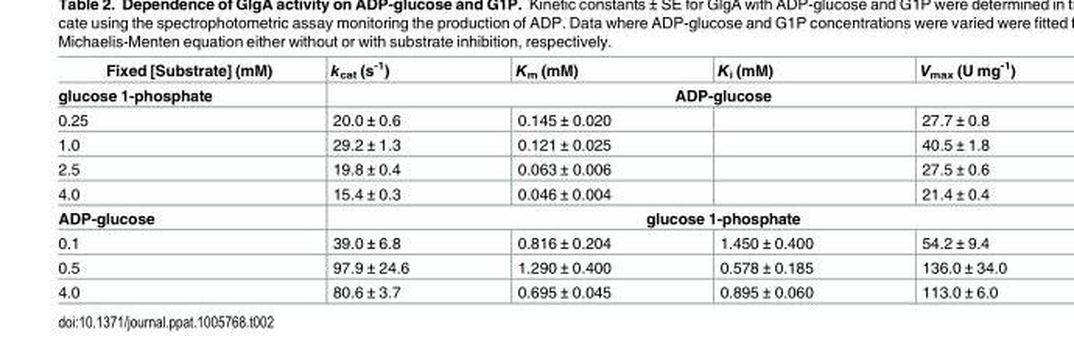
<table><thead><tr><td>Fixed [Substrate] (mM)</td><td>k<sub>cat</sub> (s<sup>-1</sup>)</td><td>K<sub>m</sub> (mM)</td><td>K<sub>i</sub> (mM)</td><td>V<sub>max</sub> (U mg<sup>-1</sup>)</td></tr></thead><tbody><tr><td>glucose 1-phosphate</td><td colspan="4">ADP-glucose</td></tr><tr><td>0.25</td><td>20.0 ± 0.6</td><td>0.145 ± 0.020</td><td></td><td>27.7 ± 0.8</td></tr><tr><td>1.0</td><td>29.2 ± 1.3</td><td>0.121 ± 0.025</td><td></td><td>40.5 ± 1.8</td></tr><tr><td>2.5</td><td>19.8 ± 0.4</td><td>0.063 ± 0.006</td><td></td><td>27.5 ± 0.6</td></tr><tr><td>4.0</td><td>15.4 ± 0.3</td><td>0.046 ± 0.004</td><td></td><td>21.4 ± 0.4</td></tr><tr><td>ADP-glucose</td><td colspan="4">glucose 1-phosphate</td></tr><tr><td>0.1</td><td>39.0 ± 6.8</td><td>0.816 ± 0.204</td><td>1.450 ± 0.400</td><td>54.2 ± 9.4</td></tr><tr><td>0.5</td><td>97.9 ± 24.6</td><td>1.290 ± 0.400</td><td>0.578 ± 0.185</td><td>136.0 ± 34.0</td></tr><tr><td>4.0</td><td>80.6 ± 3.7</td><td>0.695 ± 0.045</td><td>0.895 ± 0.060</td><td>113.0 ± 6.0</td></tr></tbody></table>